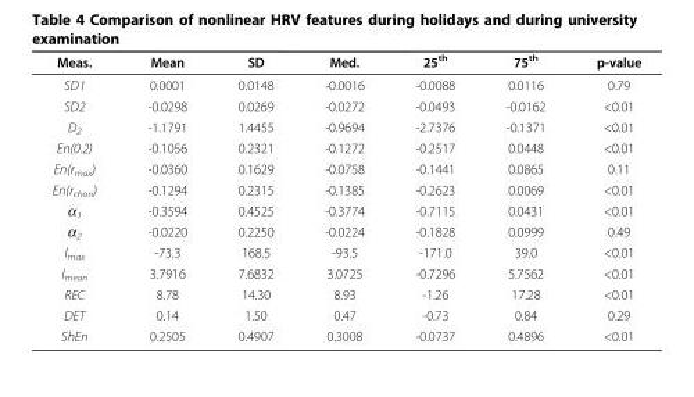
<table><thead><tr><td>Meas.</td><td>Mean</td><td>SD</td><td>Med.</td><td>25<sup>th</sup></td><td>75<sup>th</sup></td><td>p-value</td></tr></thead><tbody><tr><td>SD1</td><td>0.0001</td><td>0.0148</td><td>-0.0016</td><td>-0.0088</td><td>0.0116</td><td>0.79</td></tr><tr><td>SD2</td><td>-0.0298</td><td>0.0269</td><td>-0.0272</td><td>-0.0493</td><td>-0.0162</td><td>&lt;0.01</td></tr><tr><td>D<sub>2</sub></td><td>-1.1791</td><td>1.4455</td><td>-0.9694</td><td>-2.7376</td><td>-0.1371</td><td>&lt;0.01</td></tr><tr><td>En(0.2)</td><td>-0.1056</td><td>0.2321</td><td>-0.1272</td><td>-0.2517</td><td>0.0448</td><td>&lt;0.01</td></tr><tr><td>En(r<sub>max</sub>)</td><td>-0.0360</td><td>0.1629</td><td>-0.0758</td><td>-0.1441</td><td>0.0865</td><td>0.11</td></tr><tr><td>En(r<sub>chon</sub>)</td><td>-0.1294</td><td>0.2315</td><td>-0.1385</td><td>-0.2623</td><td>0.0069</td><td>&lt;0.01</td></tr><tr><td>α<sub>1</sub></td><td>-0.3594</td><td>0.4525</td><td>-0.3774</td><td>-0.7115</td><td>0.0431</td><td>&lt;0.01</td></tr><tr><td>α<sub>2</sub></td><td>-0.0220</td><td>0.2250</td><td>-0.0224</td><td>-0.1828</td><td>0.0999</td><td>0.49</td></tr><tr><td>l<sub>max</sub></td><td>-73.3</td><td>168.5</td><td>-93.5</td><td>-171.0</td><td>39.0</td><td>&lt;0.01</td></tr><tr><td>l<sub>mean</sub></td><td>3.7916</td><td>7.6832</td><td>3.0725</td><td>-0.7296</td><td>5.7562</td><td>&lt;0.01</td></tr><tr><td>REC</td><td>8.78</td><td>14.30</td><td>8.93</td><td>-1.26</td><td>17.28</td><td>&lt;0.01</td></tr><tr><td>DET</td><td>0.14</td><td>1.50</td><td>0.47</td><td>-0.73</td><td>0.84</td><td>0.29</td></tr><tr><td>ShEn</td><td>0.2505</td><td>0.4907</td><td>0.3008</td><td>-0.0737</td><td>0.4896</td><td>&lt;0.01</td></tr></tbody></table>